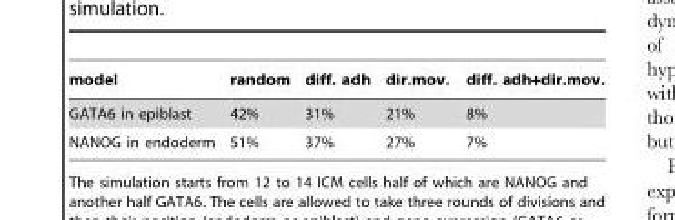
<table><thead><tr><td>model</td><td>random</td><td>diff. adh</td><td>dir.mov.</td><td>diff. adh+dir.mov.</td></tr></thead><tbody><tr><td>GATA6 in epiblast</td><td>42%</td><td>31%</td><td>21%</td><td>8%</td></tr><tr><td>NANOG in endoderm</td><td>51%</td><td>37%</td><td>27%</td><td>7%</td></tr></tbody></table>